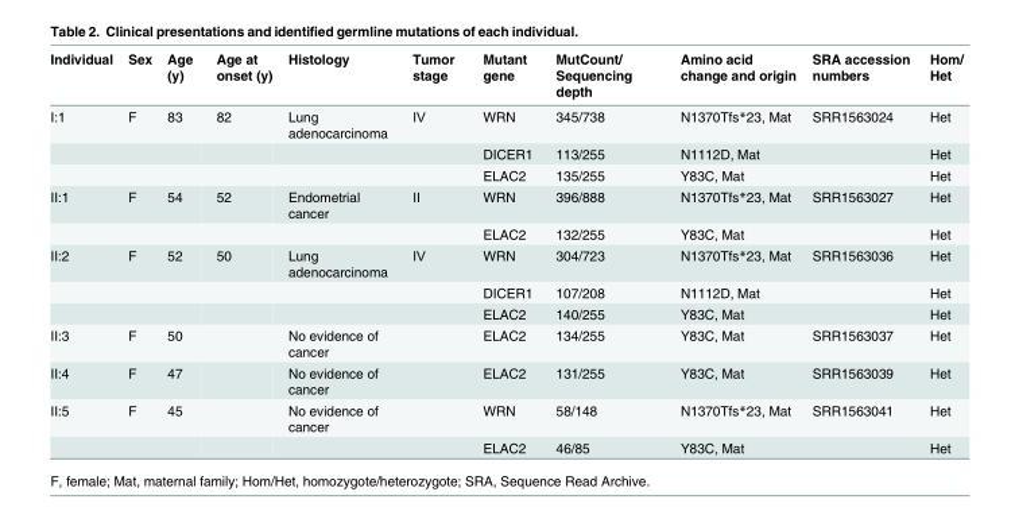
<table><thead><tr><td>Individual</td><td>Sex</td><td>Age (y)</td><td>Age at onset (y)</td><td>Histology</td><td>Tumor stage</td><td>Mutant gene</td><td>MutCount/ Sequencing depth</td><td>Amino acid change and origin</td><td>SRA accession numbers</td><td>Hom/ Het</td></tr></thead><tbody><tr><td rowspan="3">I:1</td><td>F</td><td>83</td><td>82</td><td>Lung adenocarcinoma</td><td>Ⅳ</td><td>WRN</td><td>345/738</td><td>N1370Tfs*23, Mat</td><td>SRR1563024</td><td>Het</td></tr><tr><td></td><td></td><td></td><td></td><td></td><td>DICER1</td><td>113/255</td><td>N1112D, Mat</td><td></td><td>Het</td></tr><tr><td></td><td></td><td></td><td></td><td></td><td>ELAC2</td><td>135/255</td><td>Y83C, Mat</td><td></td><td>Het</td></tr><tr><td rowspan="2">Ⅱ:1</td><td>F</td><td>54</td><td>52</td><td>Endometrial cancer</td><td>Ⅱ</td><td>WRN</td><td>396/888</td><td>N1370Tfs*23, Mat</td><td>SRR1563027</td><td>Het</td></tr><tr><td></td><td></td><td></td><td></td><td></td><td>ELAC2</td><td>132/255</td><td>Y83C, Mat</td><td></td><td>Het</td></tr><tr><td rowspan="3">Ⅱ:2</td><td>F</td><td>52</td><td>50</td><td>Lung adenocarcinoma</td><td>Ⅳ</td><td>WRN</td><td>304/723</td><td>N1370Tfs*23, Mat</td><td>SRR1563036</td><td>Het</td></tr><tr><td></td><td></td><td></td><td></td><td></td><td>DICER1</td><td>107/208</td><td>N1112D, Mat</td><td></td><td>Het</td></tr><tr><td></td><td></td><td></td><td></td><td></td><td>ELAC2</td><td>140/255</td><td>Y83C, Mat</td><td></td><td>Het</td></tr><tr><td>Ⅱ:3</td><td>F</td><td>50</td><td></td><td>No evidence of cancer</td><td></td><td>ELAC2</td><td>134/255</td><td>Y83C, Mat</td><td>SRR1563037</td><td>Het</td></tr><tr><td>Ⅱ:4</td><td>F</td><td>47</td><td></td><td>No evidence of cancer</td><td></td><td>ELAC2</td><td>131/255</td><td>Y83C, Mat</td><td>SRR1563039</td><td>Het</td></tr><tr><td rowspan="2">Ⅱ:5</td><td>F</td><td>45</td><td></td><td>No evidence of cancer</td><td></td><td>WRN</td><td>58/148</td><td>N1370Tfs*23, Mat</td><td>SRR1563041</td><td>Het</td></tr><tr><td></td><td></td><td></td><td></td><td></td><td>ELAC2</td><td>46/85</td><td>Y83C, Mat</td><td></td><td>Het</td></tr></tbody></table>